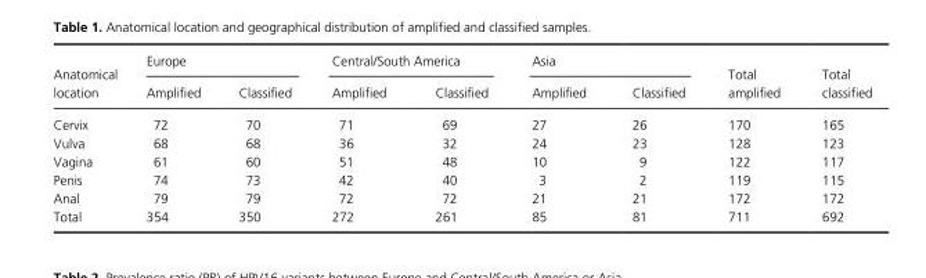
<table><thead><tr><td rowspan="2">Anatomical location</td><td colspan="2">Europe</td><td colspan="2">Central/South America</td><td colspan="2">Asia</td><td rowspan="2">Total amplified</td><td rowspan="2">Total classified</td></tr><tr><td>Amplified</td><td>Classified</td><td>Amplified</td><td>Classified</td><td>Amplified</td><td>Classified</td></tr></thead><tbody><tr><td>Cervix</td><td>72</td><td>70</td><td>71</td><td>69</td><td>27</td><td>26</td><td>170</td><td>165</td></tr><tr><td>Vulva</td><td>68</td><td>68</td><td>36</td><td>32</td><td>24</td><td>23</td><td>128</td><td>123</td></tr><tr><td>Vagina</td><td>61</td><td>60</td><td>51</td><td>48</td><td>10</td><td>9</td><td>122</td><td>117</td></tr><tr><td>Penis</td><td>74</td><td>73</td><td>42</td><td>40</td><td>3</td><td>2</td><td>119</td><td>115</td></tr><tr><td>Anal</td><td>79</td><td>79</td><td>72</td><td>72</td><td>21</td><td>21</td><td>172</td><td>172</td></tr><tr><td>Total</td><td>354</td><td>350</td><td>272</td><td>261</td><td>85</td><td>81</td><td>711</td><td>692</td></tr></tbody></table>